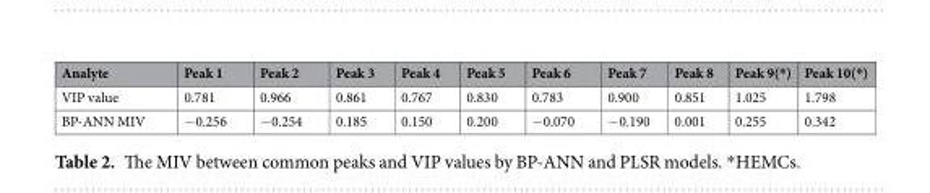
<table><thead><tr><td>Analyte</td><td>Peak 1</td><td>Peak 2</td><td>Peak 3</td><td>Peak 4</td><td>Peak 5</td><td>Peak 6</td><td>Peak 7</td><td>Peak 8</td><td>Peak 9(*)</td><td>Peak 10(*)</td></tr></thead><tbody><tr><td>VIP value</td><td>0.781</td><td>0.966</td><td>0.861</td><td>0.767</td><td>0.830</td><td>0.783</td><td>0.900</td><td>0.851</td><td>1.025</td><td>1.798</td></tr><tr><td>BP-ANN MIV</td><td>−0.256</td><td>−0.254</td><td>0.185</td><td>0.150</td><td>0.200</td><td>−0.070</td><td>−0.190</td><td>0.001</td><td>0.255</td><td>0.342</td></tr></tbody></table>